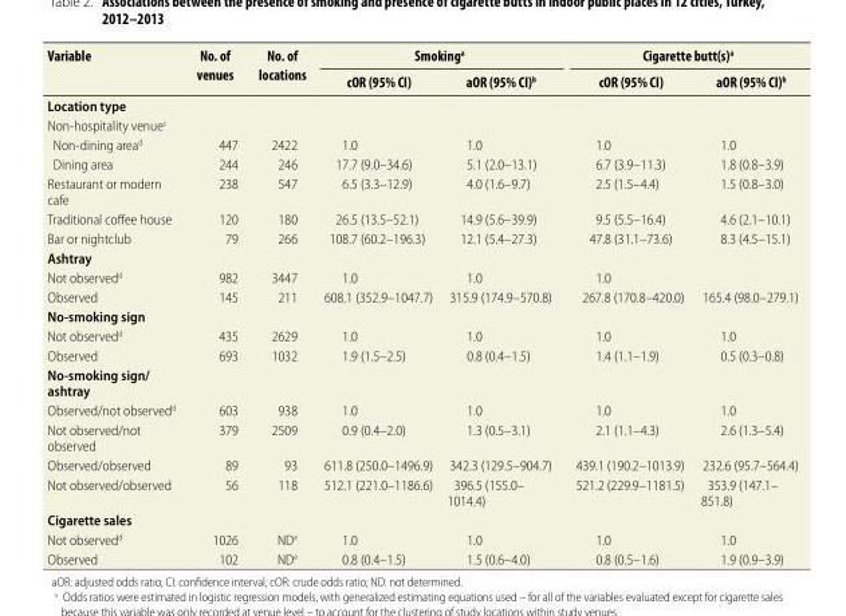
<table><thead><tr><td rowspan="2">Variable</td><td rowspan="2">No. of venues</td><td rowspan="2">No. of locations</td><td colspan="2">Smoking<sup>a</sup></td><td colspan="2">Cigarette butt(s)<sup>a</sup></td></tr><tr><td>cOR (95% CI)</td><td>aOR (95% CI)<sup>b</sup></td><td>cOR (95% CI)</td><td>aOR (95% CI)<sup>b</sup></td></tr></thead><tbody><tr><td colspan="7">Location type</td></tr><tr><td colspan="7">Non-hospitality venue<sup>c</sup></td></tr><tr><td>Non-dining area<sup>d</sup></td><td>447</td><td>2422</td><td>1.0</td><td>1.0</td><td>1.0</td><td>1.0</td></tr><tr><td>Dining area</td><td>244</td><td>246</td><td>17.7 (9.0–34.6)</td><td>5.1 (2.0–13.1)</td><td>6.7 (3.9–11.3)</td><td>1.8 (0.8–3.9)</td></tr><tr><td>Restaurant or modern cafe</td><td>238</td><td>547</td><td>6.5 (3.3–12.9)</td><td>4.0 (1.6–9.7)</td><td>2.5 (1.5–4.4)</td><td>1.5 (0.8–3.0)</td></tr><tr><td>Traditional coffee house</td><td>120</td><td>180</td><td>26.5 (13.5–52.1)</td><td>14.9 (5.6–39.9)</td><td>9.5 (5.5–16.4)</td><td>4.6 (2.1–10.1)</td></tr><tr><td>Bar or nightclub</td><td>79</td><td>266</td><td>108.7 (60.2–196.3)</td><td>12.1 (5.4–27.3)</td><td>47.8 (31.1–73.6)</td><td>8.3 (4.5–15.1)</td></tr><tr><td colspan="7">Ashtray</td></tr><tr><td>Not observed<sup>d</sup></td><td>982</td><td>3447</td><td>1.0</td><td>1.0</td><td>1.0</td><td></td></tr><tr><td>Observed</td><td>145</td><td>211</td><td>608.1 (352.9–1047.7)</td><td>315.9 (174.9–570.8)</td><td>267.8 (170.8–420.0)</td><td>165.4 (98.0–279.1)</td></tr><tr><td colspan="7">No-smoking sign</td></tr><tr><td>Not observed<sup>d</sup></td><td>435</td><td>2629</td><td>1.0</td><td>1.0</td><td>1.0</td><td>1.0</td></tr><tr><td>Observed</td><td>693</td><td>1032</td><td>1.9 (1.5–2.5)</td><td>0.8 (0.4–1.5)</td><td>1.4 (1.1–1.9)</td><td>0.5 (0.3–0.8)</td></tr><tr><td colspan="7">No-smoking sign/ ashtray</td></tr><tr><td>Observed/not observed<sup>d</sup></td><td>603</td><td>938</td><td>1.0</td><td>1.0</td><td>1.0</td><td>1.0</td></tr><tr><td>Not observed/not observed</td><td>379</td><td>2509</td><td>0.9 (0.4–2.0)</td><td>1.3 (0.5–3.1)</td><td>2.1 (1.1–4.3)</td><td>2.6 (1.3–5.4)</td></tr><tr><td>Observed/observed</td><td>89</td><td>93</td><td>611.8 (250.0–1496.9)</td><td>342.3 (129.5–904.7)</td><td>439.1 (190.2–1013.9)</td><td>232.6 (95.7–564.4)</td></tr><tr><td>Not observed/observed</td><td>56</td><td>118</td><td>512.1 (221.0–1186.6)</td><td>396.5 (155.0– 1014.4)</td><td>521.2 (229.9–1181.5)</td><td>353.9 (147.1– 851.8)</td></tr><tr><td colspan="7">Cigarette sales</td></tr><tr><td>Not observed<sup>d</sup></td><td>1026</td><td>ND<sup>e</sup></td><td>1.0</td><td>1.0</td><td>1.0</td><td>1.0</td></tr><tr><td>Observed</td><td>102</td><td>ND<sup>e</sup></td><td>0.8 (0.4–1.5)</td><td>1.5 (0.6–4.0)</td><td>0.8 (0.5–1.6)</td><td>1.9 (0.9–3.9)</td></tr></tbody></table>